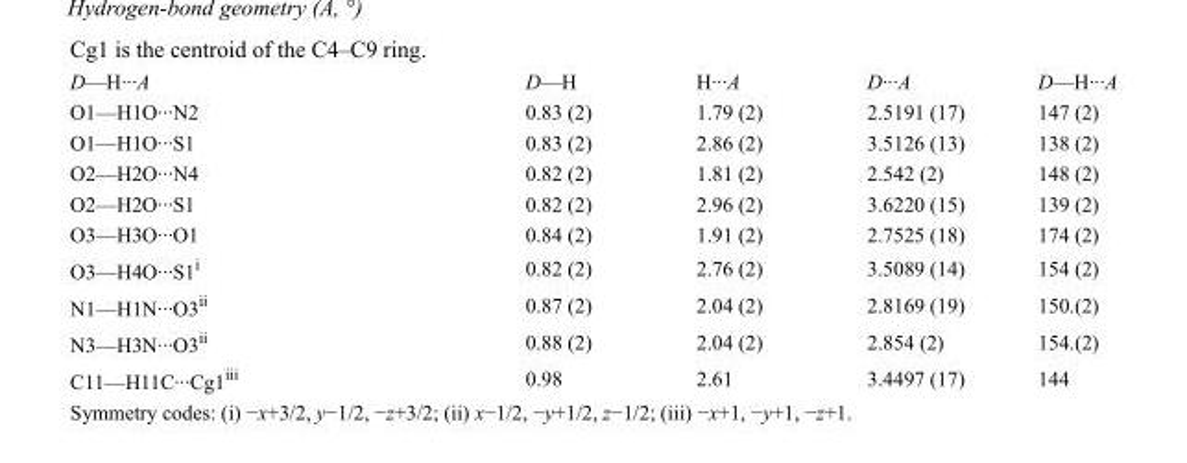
<table><tbody><tr><td>D—H···A</td><td>D—H</td><td>H···A</td><td>D···A</td><td>D—H···A</td></tr><tr><td>O1—H1O···N2</td><td>0.83 (2)</td><td>1.79 (2)</td><td>2.5191 (17)</td><td>147 (2)</td></tr><tr><td>O1—H1O···S1</td><td>0.83 (2)</td><td>2.86 (2)</td><td>3.5126 (13)</td><td>138 (2)</td></tr><tr><td>O2—H2O···N4</td><td>0.82 (2)</td><td>1.81 (2)</td><td>2.542 (2)</td><td>148 (2)</td></tr><tr><td>O2—H2O···S1</td><td>0.82 (2)</td><td>2.96 (2)</td><td>3.6220 (15)</td><td>139 (2)</td></tr><tr><td>O3—H3O···O1</td><td>0.84 (2)</td><td>1.91 (2)</td><td>2.7525 (18)</td><td>174 (2)</td></tr><tr><td>O3—H4O···S1<sup>i</sup></td><td>0.82 (2)</td><td>2.76 (2)</td><td>3.5089 (14)</td><td>154 (2)</td></tr><tr><td>N1—H1N···O3<sup>ii</sup></td><td>0.87 (2)</td><td>2.04 (2)</td><td>2.8169 (19)</td><td>150.(2)</td></tr><tr><td>N3—H3N···O3<sup>ii</sup></td><td>0.88 (2)</td><td>2.04 (2)</td><td>2.854 (2)</td><td>154.(2)</td></tr><tr><td>C11—H11C···Cg1<sup>iii</sup></td><td>0.98</td><td>2.61</td><td>3.4497 (17)</td><td>144</td></tr></tbody></table>